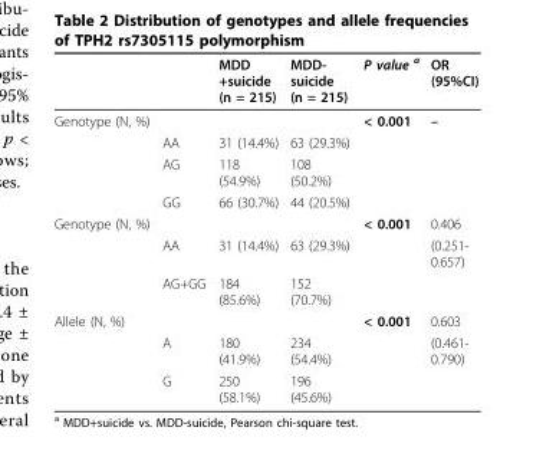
<table><thead><tr><td></td><td></td><td>MDD +suicide (n = 215)</td><td>MDD- suicide (n = 215)</td><td>P value <sup>a</sup></td><td>OR (95%CI)</td></tr></thead><tbody><tr><td rowspan="4">Genotype (N, %)</td><td></td><td></td><td></td><td>&lt; 0.001</td><td>–</td></tr><tr><td>AA</td><td>31 (14.4%)</td><td>63 (29.3%)</td><td></td><td></td></tr><tr><td>AG</td><td>118 (54.9%)</td><td>108 (50.2%)</td><td></td><td></td></tr><tr><td>GG</td><td>66 (30.7%)</td><td>44 (20.5%)</td><td></td><td></td></tr><tr><td rowspan="3">Genotype (N, %)</td><td></td><td></td><td></td><td>&lt; 0.001</td><td>0.406</td></tr><tr><td>AA</td><td>31 (14.4%)</td><td>63 (29.3%)</td><td></td><td>(0.251- 0.657)</td></tr><tr><td>AG+GG</td><td>184 (85.6%)</td><td>152 (70.7%)</td><td></td><td></td></tr><tr><td rowspan="3">Allele (N, %)</td><td></td><td></td><td></td><td>&lt; 0.001</td><td>0.603</td></tr><tr><td>A</td><td>180 (41.9%)</td><td>234 (54.4%)</td><td></td><td>(0.461- 0.790)</td></tr><tr><td>G</td><td>250 (58.1%)</td><td>196 (45.6%)</td><td></td><td></td></tr></tbody></table>